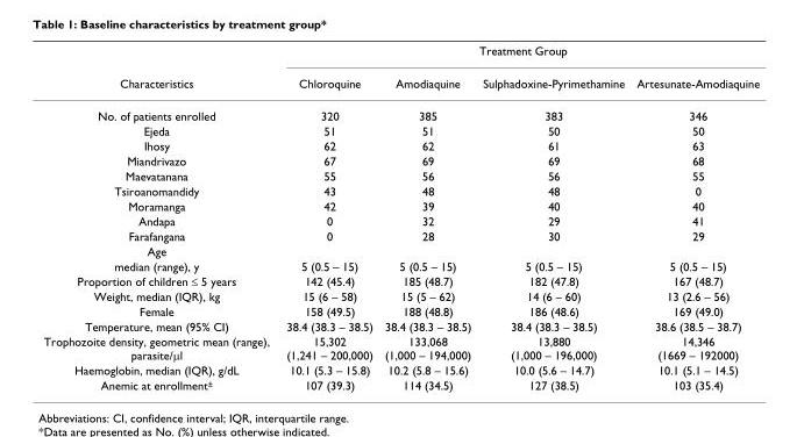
<table><thead><tr><td rowspan="2">Characteristics</td><td colspan="4">Treatment Group</td></tr><tr><td>Chloroquine</td><td>Amodiaquine</td><td>Sulphadoxine-Pyrimethamine</td><td>Artesunate-Amodiaquine</td></tr></thead><tbody><tr><td>No. of patients enrolled</td><td>320</td><td>385</td><td>383</td><td>346</td></tr><tr><td>Ejeda</td><td>51</td><td>51</td><td>50</td><td>50</td></tr><tr><td>Ihosy</td><td>62</td><td>62</td><td>61</td><td>63</td></tr><tr><td>Miandrivazo</td><td>67</td><td>69</td><td>69</td><td>68</td></tr><tr><td>Maevatanana</td><td>55</td><td>56</td><td>56</td><td>55</td></tr><tr><td>Tsiroanomandidy</td><td>43</td><td>48</td><td>48</td><td>0</td></tr><tr><td>Moramanga</td><td>42</td><td>39</td><td>40</td><td>40</td></tr><tr><td>Andapa</td><td>0</td><td>32</td><td>29</td><td>41</td></tr><tr><td>Farafangana</td><td>0</td><td>28</td><td>30</td><td>29</td></tr><tr><td colspan="5">Age</td></tr><tr><td>median (range), y</td><td>5 (0.5 – 15)</td><td>5 (0.5 – 15)</td><td>5 (0.5 – 15)</td><td>5 (0.5 – 15)</td></tr><tr><td>Proportion of children ≤ 5 years</td><td>142 (45.4)</td><td>185 (48.7)</td><td>182 (47.8)</td><td>167 (48.7)</td></tr><tr><td>Weight, median (IQR), kg</td><td>15 (6 – 58)</td><td>15 (5 – 62)</td><td>14 (6 – 60)</td><td>13 (2.6 – 56)</td></tr><tr><td>Female</td><td>158 (49.5)</td><td>188 (48.8)</td><td>186 (48.6)</td><td>169 (49.0)</td></tr><tr><td>Temperature, mean (95% CI)</td><td>38.4 (38.3 – 38.5)</td><td>38.4 (38.3 – 38.5)</td><td>38.4 (38.3 – 38.5)</td><td>38.6 (38.5 – 38.7)</td></tr><tr><td>Trophozoite density, geometric mean (range), parasite/μl</td><td>15,302 (1,241 – 200,000)</td><td>133,068 (1,000 – 194,000)</td><td>13,880 (1,000 – 196,000)</td><td>14,346 (1669 – 192000)</td></tr><tr><td>Haemoglobin, median (IQR), g/dL</td><td>10.1 (5.3 – 15.8)</td><td>10.2 (5.8 – 15.6)</td><td>10.0 (5.6 – 14.7)</td><td>10.1 (5.1 – 14.5)</td></tr><tr><td>Anemic at enrollment<sup>±</sup></td><td>107 (39.3)</td><td>114 (34.5)</td><td>127 (38.5)</td><td>103 (35.4)</td></tr></tbody></table>